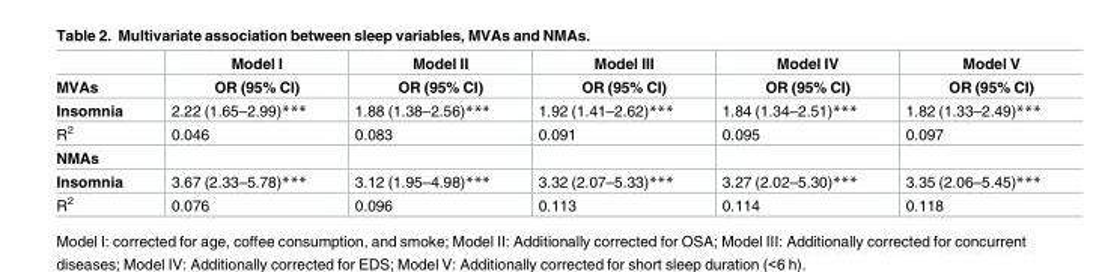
<table><thead><tr><td rowspan="2">MVAs</td><td rowspan="2">Model I OR (95% CI)</td><td rowspan="2">Model II OR (95% CI)</td><td rowspan="2">Model III OR (95% CI)</td><td rowspan="2">Model IV OR (95% CI)</td><td rowspan="2">Model V OR (95% CI)</td></tr><tr></tr></thead><tbody><tr><td>Insomnia</td><td>2.22 (1.65–2.99)***</td><td>1.88 (1.38–2.56)***</td><td>1.92 (1.41–2.62)***</td><td>1.84 (1.34–2.51)***</td><td>1.82 (1.33–2.49)***</td></tr><tr><td>R<sup>2</sup></td><td>0.046</td><td>0.083</td><td>0.091</td><td>0.095</td><td>0.097</td></tr><tr><td colspan="6">NMAs</td></tr><tr><td>Insomnia</td><td>3.67 (2.33–5.78)***</td><td>3.12 (1.95–4.98)***</td><td>3.32 (2.07–5.33)***</td><td>3.27 (2.02–5.30)***</td><td>3.35 (2.06–5.45)***</td></tr><tr><td>R<sup>2</sup></td><td>0.076</td><td>0.096</td><td>0.113</td><td>0.114</td><td>0.118</td></tr></tbody></table>